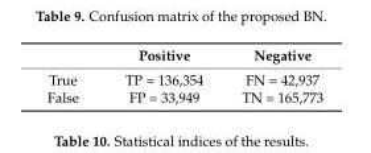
<table><thead><tr><td></td><td>Positive</td><td>Negative</td></tr></thead><tbody><tr><td>True</td><td>TP = 136,354</td><td>FN = 42,937</td></tr><tr><td>False</td><td>FP = 33,949</td><td>TN = 165,773</td></tr></tbody></table>